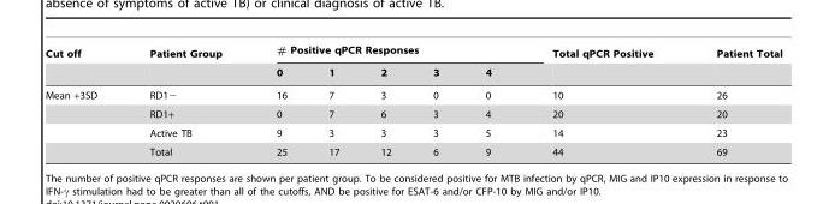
<table><thead><tr><td rowspan="2">Cut off</td><td rowspan="2">Patient Group</td><td colspan="5"># Positive qPCR Responses</td><td rowspan="2">Total qPCR Positive</td><td rowspan="2">Patient Total</td></tr><tr><td>0</td><td>1</td><td>2</td><td>3</td><td>4</td></tr></thead><tbody><tr><td rowspan="4">Mean +3SD</td><td>RD1−</td><td>16</td><td>7</td><td>3</td><td>0</td><td>0</td><td>10</td><td>26</td></tr><tr><td>RD1+</td><td>0</td><td>7</td><td>6</td><td>3</td><td>4</td><td>20</td><td>20</td></tr><tr><td>Active TB</td><td>9</td><td>3</td><td>3</td><td>3</td><td>5</td><td>14</td><td>23</td></tr><tr><td>Total</td><td>25</td><td>17</td><td>12</td><td>6</td><td>9</td><td>44</td><td>69</td></tr></tbody></table>